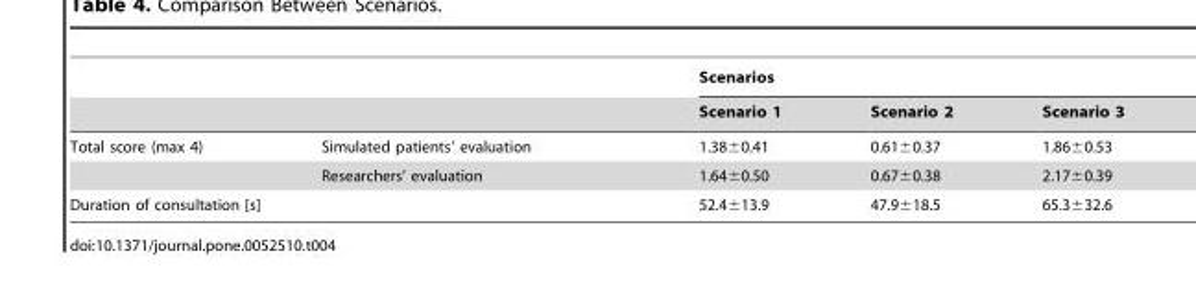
<table><thead><tr><td rowspan="2"></td><td rowspan="2"></td><td colspan="3">Scenarios</td></tr><tr><td>Scenario 1</td><td>Scenario 2</td><td>Scenario 3</td></tr></thead><tbody><tr><td rowspan="2">Total score (max 4)</td><td>Simulated patients’ evaluation</td><td>1.38±0.41</td><td>0.61±0.37</td><td>1.86±0.53</td></tr><tr><td>Researchers’ evaluation</td><td>1.64±0.50</td><td>0.67±0.38</td><td>2.17±0.39</td></tr><tr><td colspan="2">Duration of consultation [s]</td><td>52.4±13.9</td><td>47.9±18.5</td><td>65.3±32.6</td></tr></tbody></table>